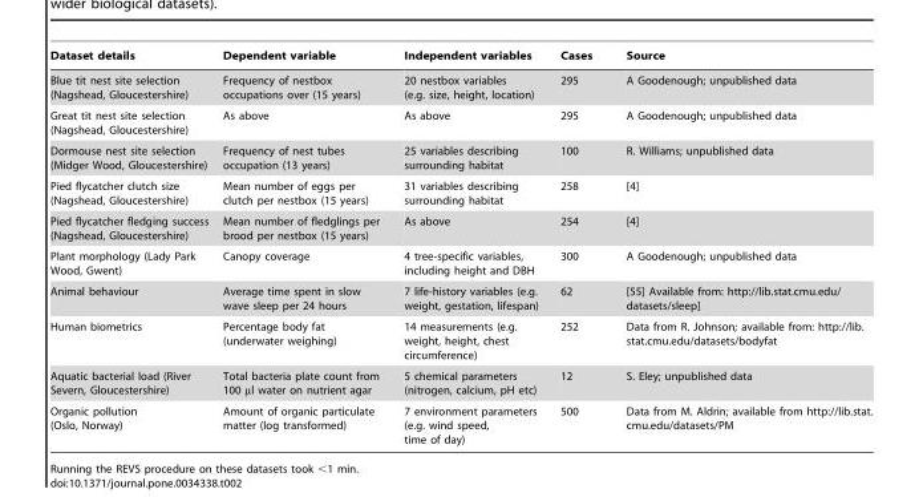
<table><thead><tr><td>Dataset details</td><td>Dependent variable</td><td>Independent variables</td><td>Cases</td><td>Source</td></tr></thead><tbody><tr><td>Blue tit nest site selection (Nagshead, Gloucestershire)</td><td>Frequency of nestbox occupations over (15 years)</td><td>20 nestbox variables (e.g. size, height, location)</td><td>295</td><td>A Goodenough; unpublished data</td></tr><tr><td>Great tit nest site selection (Nagshead, Gloucestershire)</td><td>As above</td><td>As above</td><td>295</td><td>A Goodenough; unpublished data</td></tr><tr><td>Dormouse nest site selection (Midger Wood, Gloucestershire)</td><td>Frequency of nest tubes occupation (13 years)</td><td>25 variables describing surrounding habitat</td><td>100</td><td>R. Williams; unpublished data</td></tr><tr><td>Pied flycatcher clutch size (Nagshead, Gloucestershire)</td><td>Mean number of eggs per clutch per nestbox (15 years)</td><td>31 variables describing surrounding habitat</td><td>258</td><td>[4]</td></tr><tr><td>Pied flycatcher fledging success (Nagshead, Gloucestershire)</td><td>Mean number of fledglings per brood per nestbox (15 years)</td><td>As above</td><td>254</td><td>[4]</td></tr><tr><td>Plant morphology (Lady Park Wood, Gwent)</td><td>Canopy coverage</td><td>4 tree-specific variables, including height and DBH</td><td>300</td><td>A Goodenough; unpublished data</td></tr><tr><td>Animal behaviour</td><td>Average time spent in slow wave sleep per 24 hours</td><td>7 life-history variables (e.g. weight, gestation, lifespan)</td><td>62</td><td>[55] Available from: http://lib.stat.cmu.edu/ datasets/sleep]</td></tr><tr><td>Human biometrics</td><td>Percentage body fat (underwater weighing)</td><td>14 measurements (e.g. weight, height, chest circumference)</td><td>252</td><td>Data from R. Johnson; available from: http://lib. stat.cmu.edu/datasets/bodyfat</td></tr><tr><td>Aquatic bacterial load (River Severn, Gloucestershire)</td><td>Total bacteria plate count from 100 µl water on nutrient agar</td><td>5 chemical parameters (nitrogen, calcium, pH etc)</td><td>12</td><td>S. Eley; unpublished data</td></tr><tr><td>Organic pollution (Oslo, Norway)</td><td>Amount of organic particulate matter (log transformed)</td><td>7 environment parameters (e.g. wind speed, time of day)</td><td>500</td><td>Data from M. Aldrin; available from http://lib.stat. cmu.edu/datasets/PM</td></tr></tbody></table>